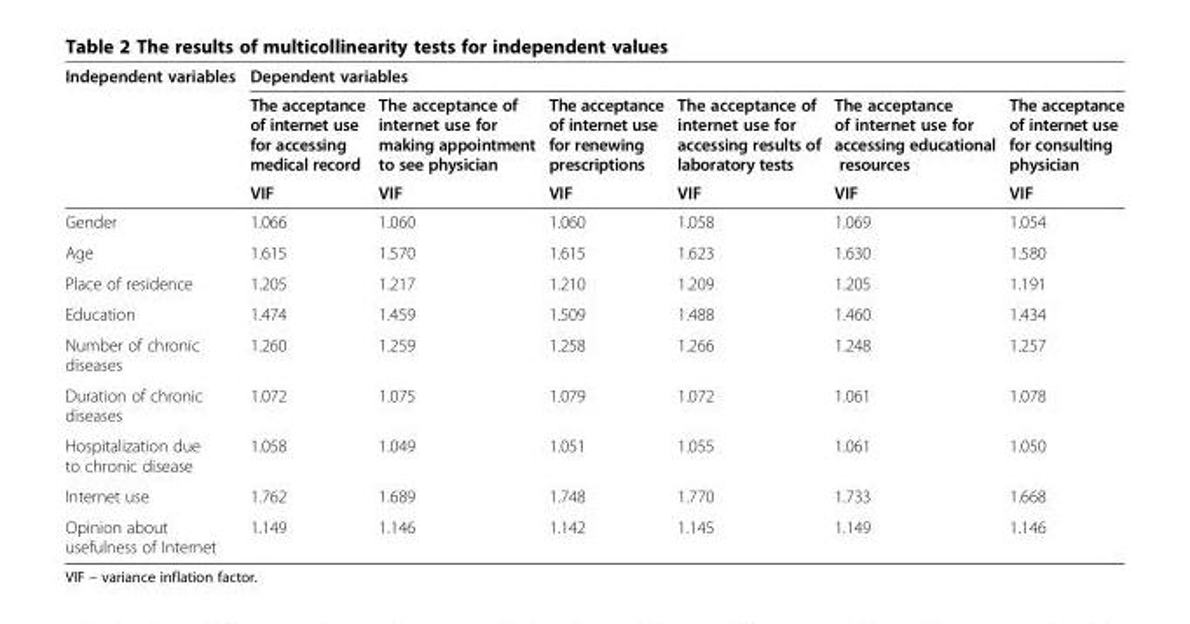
<table><thead><tr><td rowspan="3">Independent variables</td><td colspan="6">Dependent variables</td></tr><tr><td rowspan="2">The acceptance of internet use for accessing medical record VIF</td><td rowspan="2">The acceptance of internet use for making appointment to see physician VIF</td><td rowspan="2">The acceptance of internet use for renewing prescriptions VIF</td><td rowspan="2">The acceptance of internet use for accessing results of laboratory tests VIF</td><td rowspan="2">The acceptance of internet use for accessing educational resources VIF</td><td rowspan="2">The acceptance of internet use for consulting physician VIF</td></tr><tr></tr></thead><tbody><tr><td>Gender</td><td>1.066</td><td>1.060</td><td>1.060</td><td>1.058</td><td>1.069</td><td>1.054</td></tr><tr><td>Age</td><td>1.615</td><td>1.570</td><td>1.615</td><td>1.623</td><td>1.630</td><td>1.580</td></tr><tr><td>Place of residence</td><td>1.205</td><td>1.217</td><td>1.210</td><td>1.209</td><td>1.205</td><td>1.191</td></tr><tr><td>Education</td><td>1.474</td><td>1.459</td><td>1.509</td><td>1.488</td><td>1.460</td><td>1.434</td></tr><tr><td>Number of chronic diseases</td><td>1.260</td><td>1.259</td><td>1.258</td><td>1.266</td><td>1.248</td><td>1.257</td></tr><tr><td>Duration of chronic diseases</td><td>1.072</td><td>1.075</td><td>1.079</td><td>1.072</td><td>1.061</td><td>1.078</td></tr><tr><td>Hospitalization due to chronic disease</td><td>1.058</td><td>1.049</td><td>1.051</td><td>1.055</td><td>1.061</td><td>1.050</td></tr><tr><td>Internet use</td><td>1.762</td><td>1.689</td><td>1.748</td><td>1.770</td><td>1.733</td><td>1.668</td></tr><tr><td>Opinion about usefulness of Internet</td><td>1.149</td><td>1.146</td><td>1.142</td><td>1.145</td><td>1.149</td><td>1.146</td></tr></tbody></table>